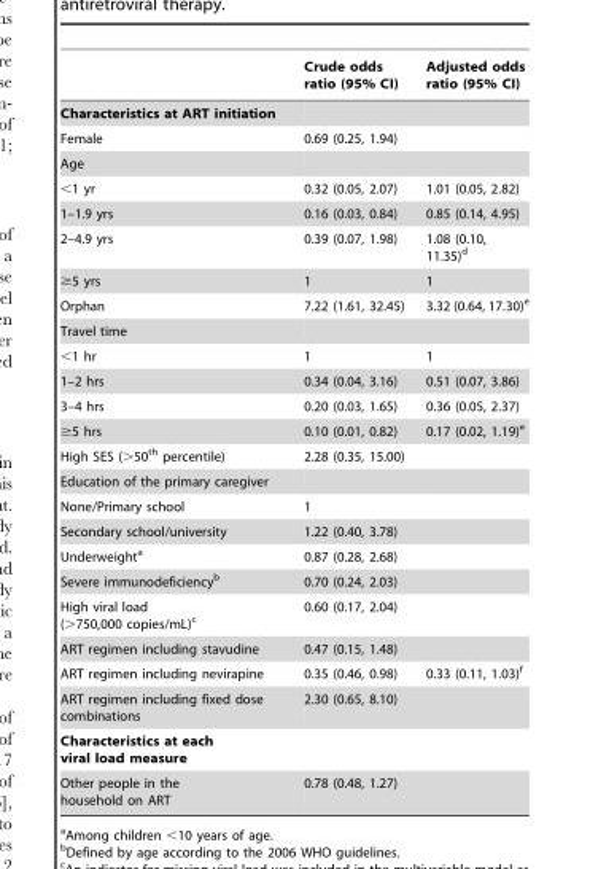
<table><thead><tr><td></td><td>Crude odds ratio (95% CI)</td><td>Adjusted odds ratio (95% CI)</td></tr></thead><tbody><tr><td colspan="3">Characteristics at ART initiation</td></tr><tr><td>Female</td><td>0.69 (0.25, 1.94)</td><td></td></tr><tr><td colspan="3">Age</td></tr><tr><td>&lt;1 yr</td><td>0.32 (0.05, 2.07)</td><td>1.01 (0.05, 2.82)</td></tr><tr><td>1–1.9 yrs</td><td>0.16 (0.03, 0.84)</td><td>0.85 (0.14, 4.95)</td></tr><tr><td>2–4.9 yrs</td><td>0.39 (0.07, 1.98)</td><td>1.08 (0.10, 11.35)<sup>d</sup></td></tr><tr><td>≥5 yrs</td><td>1</td><td>1</td></tr><tr><td>Orphan</td><td>7.22 (1.61, 32.45)</td><td>3.32 (0.64, 17.30)<sup>e</sup></td></tr><tr><td colspan="3">Travel time</td></tr><tr><td>&lt;1 hr</td><td>1</td><td>1</td></tr><tr><td>1–2 hrs</td><td>0.34 (0.04, 3.16)</td><td>0.51 (0.07, 3.86)</td></tr><tr><td>3–4 hrs</td><td>0.20 (0.03, 1.65)</td><td>0.36 (0.05, 2.37)</td></tr><tr><td>≥5 hrs</td><td>0.10 (0.01, 0.82)</td><td>0.17 (0.02, 1.19)<sup>e</sup></td></tr><tr><td>High SES (&gt;50<sup>th</sup> percentile)</td><td>2.28 (0.35, 15.00)</td><td></td></tr><tr><td colspan="3">Education of the primary caregiver</td></tr><tr><td>None/Primary school</td><td>1</td><td></td></tr><tr><td>Secondary school/university</td><td>1.22 (0.40, 3.78)</td><td></td></tr><tr><td>Underweight<sup>a</sup></td><td>0.87 (0.28, 2.68)</td><td></td></tr><tr><td>Severe immunodeficiency<sup>b</sup></td><td>0.70 (0.24, 2.03)</td><td></td></tr><tr><td>High viral load (&gt;750,000 copies/mL)<sup>c</sup></td><td>0.60 (0.17, 2.04)</td><td></td></tr><tr><td>ART regimen including stavudine</td><td>0.47 (0.15, 1.48)</td><td></td></tr><tr><td>ART regimen including nevirapine</td><td>0.35 (0.46, 0.98)</td><td>0.33 (0.11, 1.03)<sup>f</sup></td></tr><tr><td>ART regimen including fixed dose combinations</td><td>2.30 (0.65, 8.10)</td><td></td></tr><tr><td colspan="3">Characteristics at each viral load measure</td></tr><tr><td>Other people in the household on ART</td><td>0.78 (0.48, 1.27)</td><td></td></tr></tbody></table>